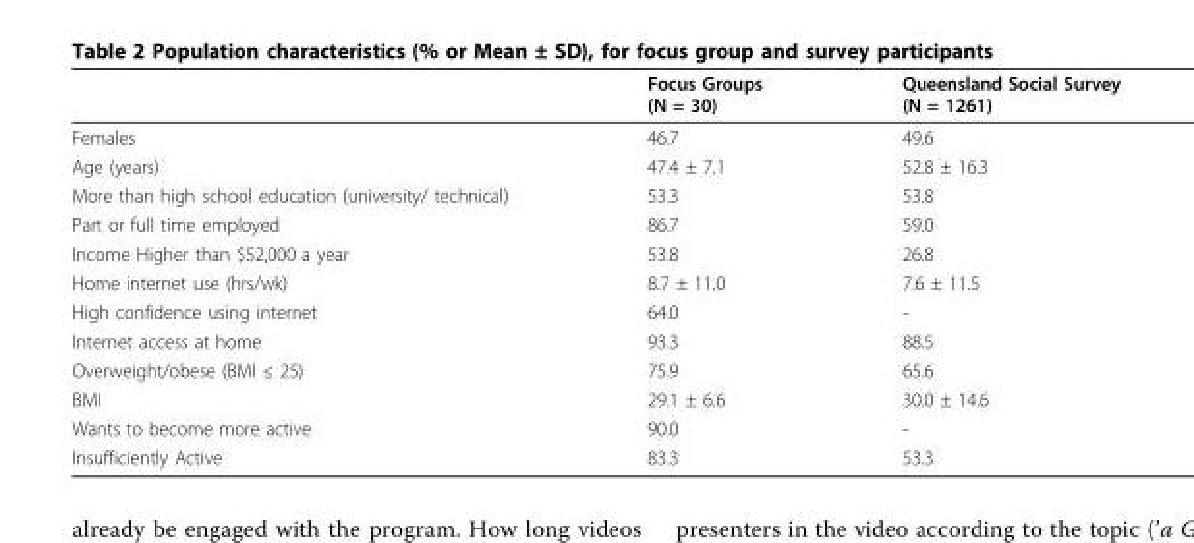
<table><thead><tr><td></td><td>Focus Groups (N = 30)</td><td>Queensland Social Survey (N = 1261)</td></tr></thead><tbody><tr><td>Females</td><td>46.7</td><td>49.6</td></tr><tr><td>Age (years)</td><td>47.4 ± 7.1</td><td>52.8 ± 16.3</td></tr><tr><td>More than high school education (university/ technical)</td><td>53.3</td><td>53.8</td></tr><tr><td>Part or full time employed</td><td>86.7</td><td>59.0</td></tr><tr><td>Income Higher than $52,000 a year</td><td>53.8</td><td>26.8</td></tr><tr><td>Home internet use (hrs/wk)</td><td>8.7 ± 11.0</td><td>7.6 ± 11.5</td></tr><tr><td>High confidence using internet</td><td>64.0</td><td>-</td></tr><tr><td>Internet access at home</td><td>93.3</td><td>88.5</td></tr><tr><td>Overweight/obese (BMI ≤ 25)</td><td>75.9</td><td>65.6</td></tr><tr><td>BMI</td><td>29.1 ± 6.6</td><td>30.0 ± 14.6</td></tr><tr><td>Wants to become more active</td><td>90.0</td><td>-</td></tr><tr><td>Insufficiently Active</td><td>83.3</td><td>53.3</td></tr></tbody></table>